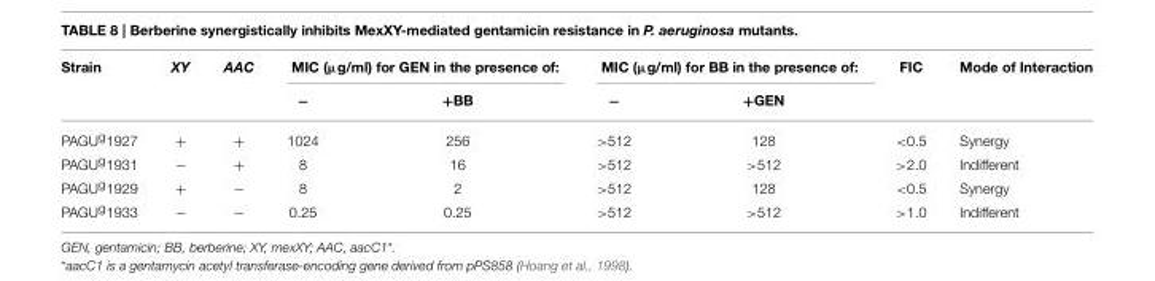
<table><thead><tr><td rowspan="2">Strain</td><td rowspan="2">XY</td><td rowspan="2">AAC</td><td colspan="2">MIC (µg/ml) for GEN in the presence of:</td><td colspan="2">MIC (µg/ml) for BB in the presence of:</td><td rowspan="2">FIC</td><td rowspan="2">Mode of Interaction</td></tr><tr><td>−</td><td>+BB</td><td>−</td><td>+GEN</td></tr></thead><tbody><tr><td>PAGU<sup>g</sup>1927</td><td>+</td><td>+</td><td>1024</td><td>256</td><td>&gt;512</td><td>128</td><td>&lt;0.5</td><td>Synergy</td></tr><tr><td>PAGU<sup>g</sup>1931</td><td>−</td><td>+</td><td>8</td><td>16</td><td>&gt;512</td><td>&gt;512</td><td>&gt;2.0</td><td>Indifferent</td></tr><tr><td>PAGU<sup>g</sup>1929</td><td>+</td><td>−</td><td>8</td><td>2</td><td>&gt;512</td><td>128</td><td>&lt;0.5</td><td>Synergy</td></tr><tr><td>PAGU<sup>g</sup>1933</td><td>−</td><td>−</td><td>0.25</td><td>0.25</td><td>&gt;512</td><td>&gt;512</td><td>&gt;1.0</td><td>Indifferent</td></tr></tbody></table>